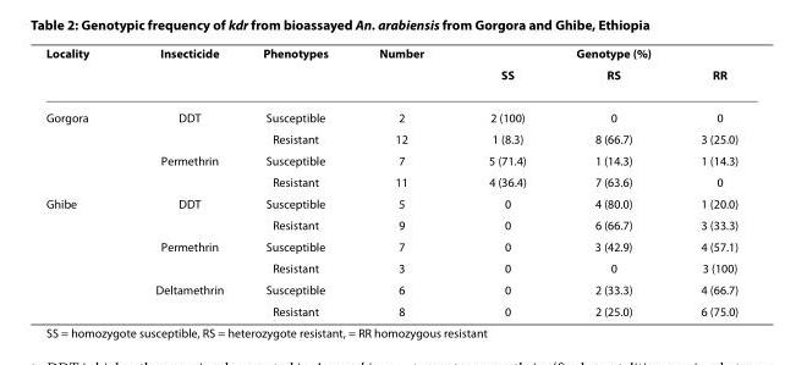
<table><thead><tr><td rowspan="2">Locality</td><td rowspan="2">Insecticide</td><td rowspan="2">Phenotypes</td><td rowspan="2">Number</td><td colspan="3">Genotype (%)</td></tr><tr><td>SS</td><td>RS</td><td>RR</td></tr></thead><tbody><tr><td rowspan="4">Gorgora</td><td>DDT</td><td>Susceptible</td><td>2</td><td>2 (100)</td><td>0</td><td>0</td></tr><tr><td></td><td>Resistant</td><td>12</td><td>1 (8.3)</td><td>8 (66.7)</td><td>3 (25.0)</td></tr><tr><td>Permethrin</td><td>Susceptible</td><td>7</td><td>5 (71.4)</td><td>1 (14.3)</td><td>1 (14.3)</td></tr><tr><td></td><td>Resistant</td><td>11</td><td>4 (36.4)</td><td>7 (63.6)</td><td>0</td></tr><tr><td rowspan="6">Ghibe</td><td>DDT</td><td>Susceptible</td><td>5</td><td>0</td><td>4 (80.0)</td><td>1 (20.0)</td></tr><tr><td></td><td>Resistant</td><td>9</td><td>0</td><td>6 (66.7)</td><td>3 (33.3)</td></tr><tr><td>Permethrin</td><td>Susceptible</td><td>7</td><td>0</td><td>3 (42.9)</td><td>4 (57.1)</td></tr><tr><td></td><td>Resistant</td><td>3</td><td>0</td><td>0</td><td>3 (100)</td></tr><tr><td>Deltamethrin</td><td>Susceptible</td><td>6</td><td>0</td><td>2 (33.3)</td><td>4 (66.7)</td></tr><tr><td></td><td>Resistant</td><td>8</td><td>0</td><td>2 (25.0)</td><td>6 (75.0)</td></tr></tbody></table>